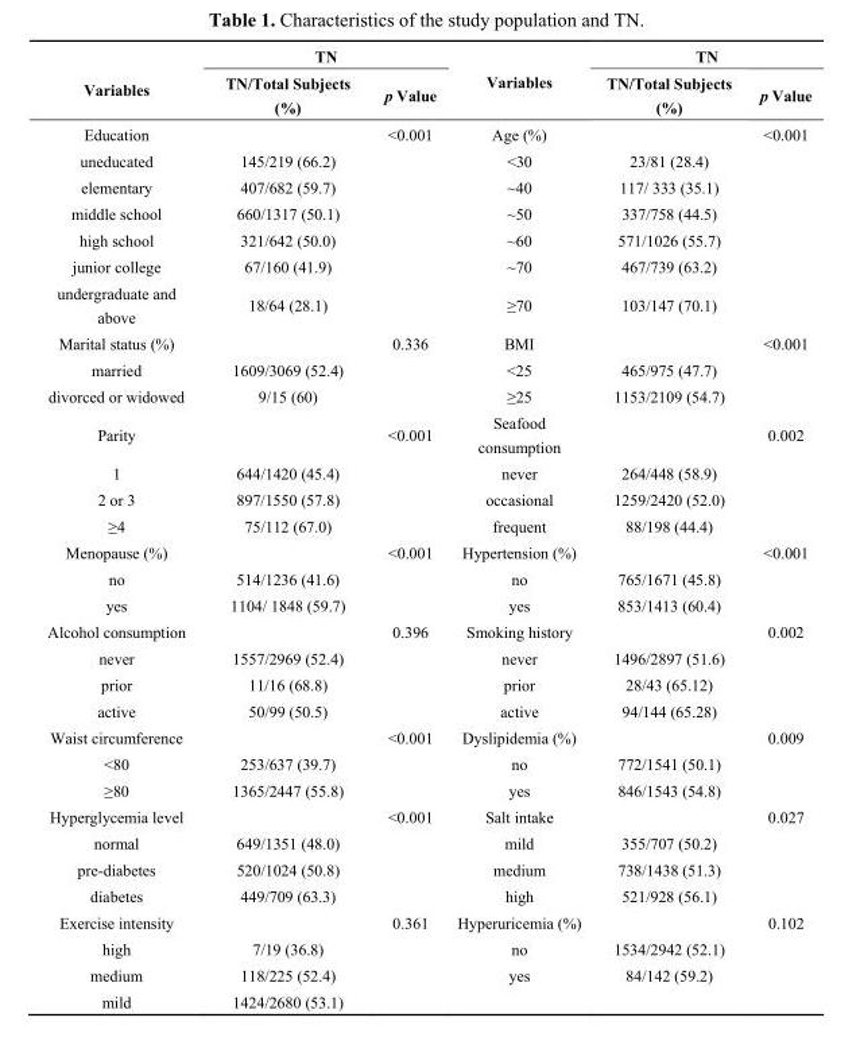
<table><thead><tr><td rowspan="2">Variables</td><td colspan="2">TN</td><td rowspan="2">Variables</td><td colspan="2">TN</td></tr><tr><td>TN/Total Subjects (%)</td><td>p Value</td><td>TN/Total Subjects (%)</td><td>p Value</td></tr></thead><tbody><tr><td>Education</td><td></td><td>&lt;0.001</td><td>Age (%)</td><td></td><td>&lt;0.001</td></tr><tr><td>uneducated</td><td>145/219 (66.2)</td><td></td><td>&lt;30</td><td>23/81 (28.4)</td><td></td></tr><tr><td>elementary</td><td>407/682 (59.7)</td><td></td><td>~40</td><td>117/ 333 (35.1)</td><td></td></tr><tr><td>middle school</td><td>660/1317 (50.1)</td><td></td><td>~50</td><td>337/758 (44.5)</td><td></td></tr><tr><td>high school</td><td>321/642 (50.0)</td><td></td><td>~60</td><td>571/1026 (55.7)</td><td></td></tr><tr><td>junior college</td><td>67/160 (41.9)</td><td></td><td>~70</td><td>467/739 (63.2)</td><td></td></tr><tr><td>undergraduate and above</td><td>18/64 (28.1)</td><td></td><td>≥70</td><td>103/147 (70.1)</td><td></td></tr><tr><td>Marital status (%)</td><td></td><td>0.336</td><td>BMI</td><td></td><td>&lt;0.001</td></tr><tr><td>married</td><td>1609/3069 (52.4)</td><td></td><td>&lt;25</td><td>465/975 (47.7)</td><td></td></tr><tr><td>divorced or widowed</td><td>9/15 (60)</td><td></td><td>≥25</td><td>1153/2109 (54.7)</td><td></td></tr><tr><td>Parity</td><td></td><td>&lt;0.001</td><td>Seafood consumption</td><td></td><td>0.002</td></tr><tr><td>1</td><td>644/1420 (45.4)</td><td></td><td>never</td><td>264/448 (58.9)</td><td></td></tr><tr><td>2 or 3</td><td>897/1550 (57.8)</td><td></td><td>occasional</td><td>1259/2420 (52.0)</td><td></td></tr><tr><td>≥4</td><td>75/112 (67.0)</td><td></td><td>frequent</td><td>88/198 (44.4)</td><td></td></tr><tr><td>Menopause (%)</td><td></td><td>&lt;0.001</td><td>Hypertension (%)</td><td></td><td>&lt;0.001</td></tr><tr><td>no</td><td>514/1236 (41.6)</td><td></td><td>no</td><td>765/1671 (45.8)</td><td></td></tr><tr><td>yes</td><td>1104/ 1848 (59.7)</td><td></td><td>yes</td><td>853/1413 (60.4)</td><td></td></tr><tr><td>Alcohol consumption</td><td></td><td>0.396</td><td>Smoking history</td><td></td><td>0.002</td></tr><tr><td>never</td><td>1557/2969 (52.4)</td><td></td><td>never</td><td>1496/2897 (51.6)</td><td></td></tr><tr><td>prior</td><td>11/16 (68.8)</td><td></td><td>prior</td><td>28/43 (65.12)</td><td></td></tr><tr><td>active</td><td>50/99 (50.5)</td><td></td><td>active</td><td>94/144 (65.28)</td><td></td></tr><tr><td>Waist circumference</td><td></td><td>&lt;0.001</td><td>Dyslipidemia (%)</td><td></td><td>0.009</td></tr><tr><td>&lt;80</td><td>253/637 (39.7)</td><td></td><td>no</td><td>772/1541 (50.1)</td><td></td></tr><tr><td>≥80</td><td>1365/2447 (55.8)</td><td></td><td>yes</td><td>846/1543 (54.8)</td><td></td></tr><tr><td>Hyperglycemia level</td><td></td><td>&lt;0.001</td><td>Salt intake</td><td></td><td>0.027</td></tr><tr><td>normal</td><td>649/1351 (48.0)</td><td></td><td>mild</td><td>355/707 (50.2)</td><td></td></tr><tr><td>pre-diabetes</td><td>520/1024 (50.8)</td><td></td><td>medium</td><td>738/1438 (51.3)</td><td></td></tr><tr><td>diabetes</td><td>449/709 (63.3)</td><td></td><td>high</td><td>521/928 (56.1)</td><td></td></tr><tr><td>Exercise intensity</td><td></td><td>0.361</td><td>Hyperuricemia (%)</td><td></td><td>0.102</td></tr><tr><td>high</td><td>7/19 (36.8)</td><td></td><td>no</td><td>1534/2942 (52.1)</td><td></td></tr><tr><td>medium</td><td>118/225 (52.4)</td><td></td><td>yes</td><td>84/142 (59.2)</td><td></td></tr><tr><td>mild</td><td>1424/2680 (53.1)</td><td></td><td></td><td></td><td></td></tr></tbody></table>